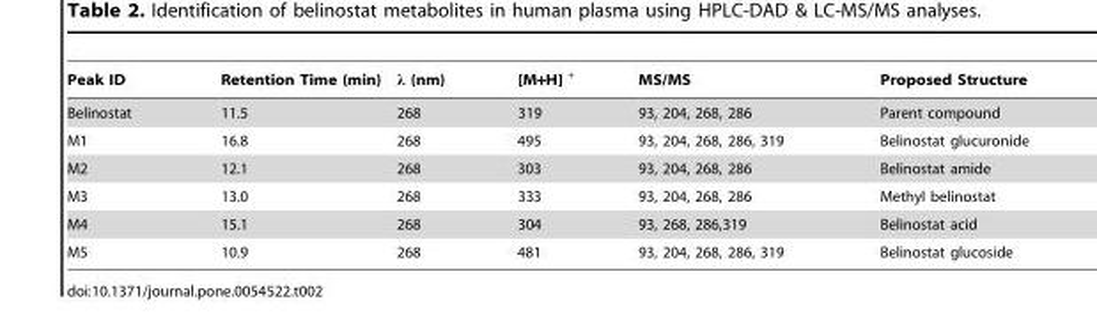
<table><thead><tr><td>Peak ID</td><td>Retention Time (min)</td><td>λ (nm)</td><td>[M+H] <sup>+</sup></td><td>MS/MS</td><td>Proposed Structure</td></tr></thead><tbody><tr><td>Belinostat</td><td>11.5</td><td>268</td><td>319</td><td>93, 204, 268, 286</td><td>Parent compound</td></tr><tr><td>M1</td><td>16.8</td><td>268</td><td>495</td><td>93, 204, 268, 286, 319</td><td>Belinostat glucuronide</td></tr><tr><td>M2</td><td>12.1</td><td>268</td><td>303</td><td>93, 204, 268, 286</td><td>Belinostat amide</td></tr><tr><td>M3</td><td>13.0</td><td>268</td><td>333</td><td>93, 204, 268, 286</td><td>Methyl belinostat</td></tr><tr><td>M4</td><td>15.1</td><td>268</td><td>304</td><td>93, 268, 286,319</td><td>Belinostat acid</td></tr><tr><td>M5</td><td>10.9</td><td>268</td><td>481</td><td>93, 204, 268, 286, 319</td><td>Belinostat glucoside</td></tr></tbody></table>